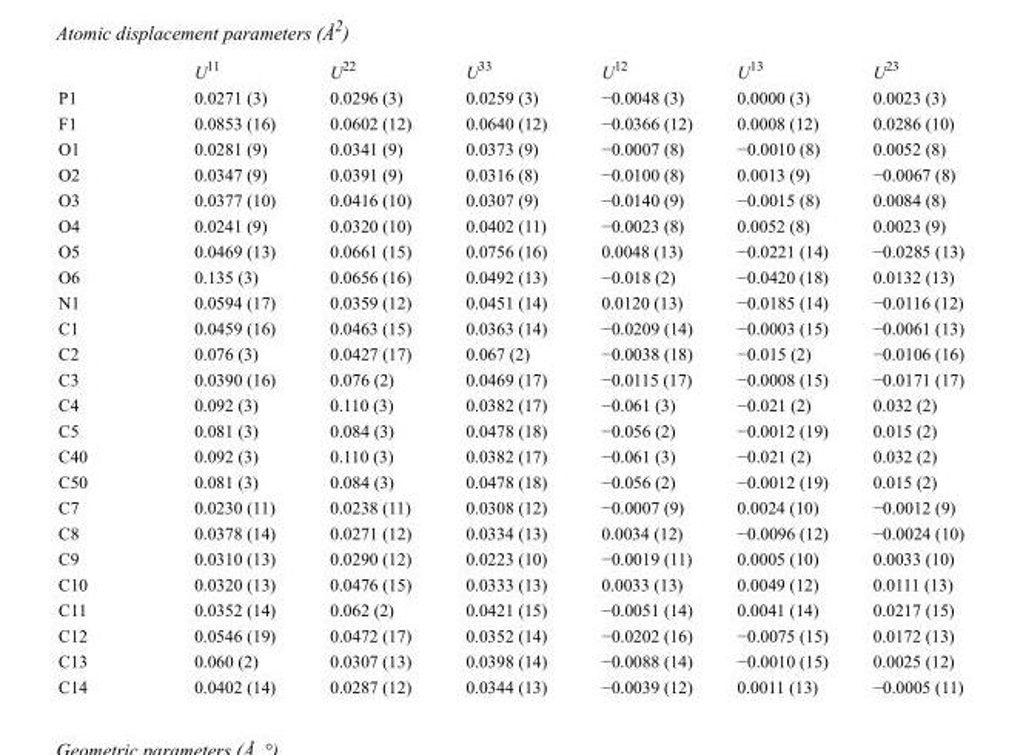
<table><thead><tr><td></td><td>U<sup>11</sup></td><td>U<sup>22</sup></td><td>U<sup>33</sup></td><td>U<sup>12</sup></td><td>U<sup>13</sup></td><td>U<sup>23</sup></td></tr></thead><tbody><tr><td>P1</td><td>0.0271 (3)</td><td>0.0296 (3)</td><td>0.0259 (3)</td><td>−0.0048 (3)</td><td>0.0000 (3)</td><td>0.0023 (3)</td></tr><tr><td>F1</td><td>0.0853 (16)</td><td>0.0602 (12)</td><td>0.0640 (12)</td><td>−0.0366 (12)</td><td>0.0008 (12)</td><td>0.0286 (10)</td></tr><tr><td>O1</td><td>0.0281 (9)</td><td>0.0341 (9)</td><td>0.0373 (9)</td><td>−0.0007 (8)</td><td>−0.0010 (8)</td><td>0.0052 (8)</td></tr><tr><td>O2</td><td>0.0347 (9)</td><td>0.0391 (9)</td><td>0.0316 (8)</td><td>−0.0100 (8)</td><td>0.0013 (9)</td><td>−0.0067 (8)</td></tr><tr><td>O3</td><td>0.0377 (10)</td><td>0.0416 (10)</td><td>0.0307 (9)</td><td>−0.0140 (9)</td><td>−0.0015 (8)</td><td>0.0084 (8)</td></tr><tr><td>O4</td><td>0.0241 (9)</td><td>0.0320 (10)</td><td>0.0402 (11)</td><td>−0.0023 (8)</td><td>0.0052 (8)</td><td>0.0023 (9)</td></tr><tr><td>O5</td><td>0.0469 (13)</td><td>0.0661 (15)</td><td>0.0756 (16)</td><td>0.0048 (13)</td><td>−0.0221 (14)</td><td>−0.0285 (13)</td></tr><tr><td>O6</td><td>0.135 (3)</td><td>0.0656 (16)</td><td>0.0492 (13)</td><td>−0.018 (2)</td><td>−0.0420 (18)</td><td>0.0132 (13)</td></tr><tr><td>N1</td><td>0.0594 (17)</td><td>0.0359 (12)</td><td>0.0451 (14)</td><td>0.0120 (13)</td><td>−0.0185 (14)</td><td>−0.0116 (12)</td></tr><tr><td>C1</td><td>0.0459 (16)</td><td>0.0463 (15)</td><td>0.0363 (14)</td><td>−0.0209 (14)</td><td>−0.0003 (15)</td><td>−0.0061 (13)</td></tr><tr><td>C2</td><td>0.076 (3)</td><td>0.0427 (17)</td><td>0.067 (2)</td><td>−0.0038 (18)</td><td>−0.015 (2)</td><td>−0.0106 (16)</td></tr><tr><td>C3</td><td>0.0390 (16)</td><td>0.076 (2)</td><td>0.0469 (17)</td><td>−0.0115 (17)</td><td>−0.0008 (15)</td><td>−0.0171 (17)</td></tr><tr><td>C4</td><td>0.092 (3)</td><td>0.110 (3)</td><td>0.0382 (17)</td><td>−0.061 (3)</td><td>−0.021 (2)</td><td>0.032 (2)</td></tr><tr><td>C5</td><td>0.081 (3)</td><td>0.084 (3)</td><td>0.0478 (18)</td><td>−0.056 (2)</td><td>−0.0012 (19)</td><td>0.015 (2)</td></tr><tr><td>C40</td><td>0.092 (3)</td><td>0.110 (3)</td><td>0.0382 (17)</td><td>−0.061 (3)</td><td>−0.021 (2)</td><td>0.032 (2)</td></tr><tr><td>C50</td><td>0.081 (3)</td><td>0.084 (3)</td><td>0.0478 (18)</td><td>−0.056 (2)</td><td>−0.0012 (19)</td><td>0.015 (2)</td></tr><tr><td>C7</td><td>0.0230 (11)</td><td>0.0238 (11)</td><td>0.0308 (12)</td><td>−0.0007 (9)</td><td>0.0024 (10)</td><td>−0.0012 (9)</td></tr><tr><td>C8</td><td>0.0378 (14)</td><td>0.0271 (12)</td><td>0.0334 (13)</td><td>0.0034 (12)</td><td>−0.0096 (12)</td><td>−0.0024 (10)</td></tr><tr><td>C9</td><td>0.0310 (13)</td><td>0.0290 (12)</td><td>0.0223 (10)</td><td>−0.0019 (11)</td><td>0.0005 (10)</td><td>0.0033 (10)</td></tr><tr><td>C10</td><td>0.0320 (13)</td><td>0.0476 (15)</td><td>0.0333 (13)</td><td>0.0033 (13)</td><td>0.0049 (12)</td><td>0.0111 (13)</td></tr><tr><td>C11</td><td>0.0352 (14)</td><td>0.062 (2)</td><td>0.0421 (15)</td><td>−0.0051 (14)</td><td>0.0041 (14)</td><td>0.0217 (15)</td></tr><tr><td>C12</td><td>0.0546 (19)</td><td>0.0472 (17)</td><td>0.0352 (14)</td><td>−0.0202 (16)</td><td>−0.0075 (15)</td><td>0.0172 (13)</td></tr><tr><td>C13</td><td>0.060 (2)</td><td>0.0307 (13)</td><td>0.0398 (14)</td><td>−0.0088 (14)</td><td>−0.0010 (15)</td><td>0.0025 (12)</td></tr><tr><td>C14</td><td>0.0402 (14)</td><td>0.0287 (12)</td><td>0.0344 (13)</td><td>−0.0039 (12)</td><td>0.0011 (13)</td><td>−0.0005 (11)</td></tr></tbody></table>